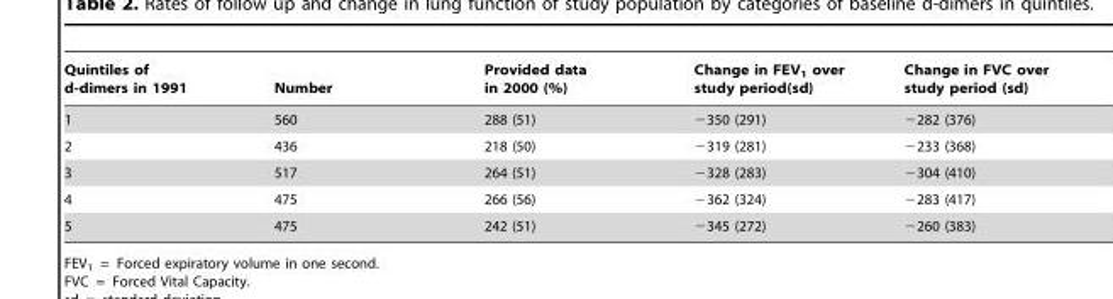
<table><thead><tr><td>Quintiles of d-dimers in 1991</td><td>Number</td><td>Provided data in 2000 (%)</td><td>Change in FEV<sub>1</sub> over study period(sd)</td><td>Change in FVC over study period (sd)</td></tr></thead><tbody><tr><td>1</td><td>560</td><td>288 (51)</td><td>−350 (291)</td><td>−282 (376)</td></tr><tr><td>2</td><td>436</td><td>218 (50)</td><td>−319 (281)</td><td>−233 (368)</td></tr><tr><td>3</td><td>517</td><td>264 (51)</td><td>−328 (283)</td><td>−304 (410)</td></tr><tr><td>4</td><td>475</td><td>266 (56)</td><td>−362 (324)</td><td>−283 (417)</td></tr><tr><td>5</td><td>475</td><td>242 (51)</td><td>−345 (272)</td><td>−260 (383)</td></tr></tbody></table>